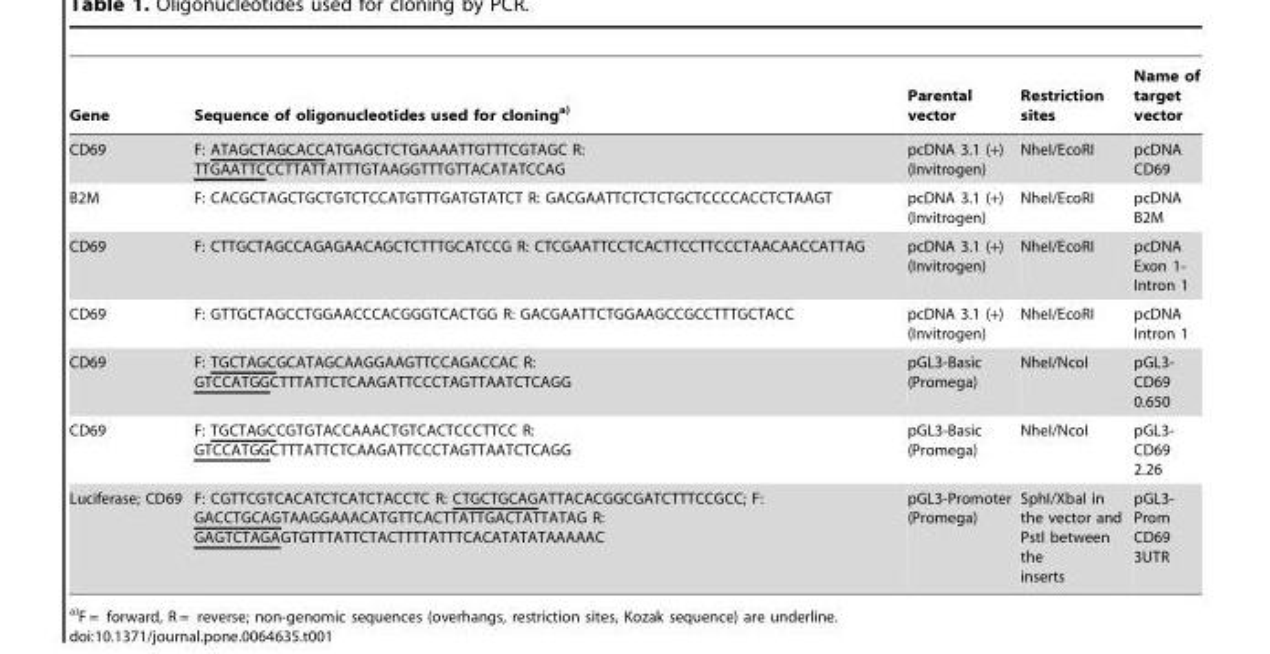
<table><thead><tr><td>Gene</td><td>Sequence of oligonucleotides used for cloninga)</td><td>Parental vector</td><td>Restriction sites</td><td>Name of target vector</td></tr></thead><tbody><tr><td>CD69</td><td>F: ATAGCTAGCACCATGAGCTCTGAAAATTGTTTCGTAGC R: TTGAATTCCCTTATTATTTGTAAGGTTTGTTACATATCCAG</td><td>pcDNA 3.1 (+) (Invitrogen)</td><td>NheI/EcoRI</td><td>pcDNA CD69</td></tr><tr><td>B2M</td><td>F: CACGCTAGCTGCTGTCTCCATGTTTGATGTATCT R: GACGAATTCTCTCTGCTCCCCACCTCTAAGT</td><td>pcDNA 3.1 (+) (Invitrogen)</td><td>NheI/EcoRI</td><td>pcDNA B2M</td></tr><tr><td>CD69</td><td>F: CTTGCTAGCCAGAGAACAGCTCTTTGCATCCG R: CTCGAATTCCTCACTTCCTTCCCTAACAACCATTAG</td><td>pcDNA 3.1 (+) (Invitrogen)</td><td>NheI/EcoRI</td><td>pcDNA Exon 1- Intron 1</td></tr><tr><td>CD69</td><td>F: GTTGCTAGCCTGGAACCCACGGGTCACTGG R: GACGAATTCTGGAAGCCGCCTTTGCTACC</td><td>pcDNA 3.1 (+) (Invitrogen)</td><td>NheI/EcoRI</td><td>pcDNA Intron 1</td></tr><tr><td>CD69</td><td>F: TGCTAGCGCATAGCAAGGAAGTTCCAGACCAC R: GTCCATGGCTTTATTCTCAAGATTCCCTAGTTAATCTCAGG</td><td>pGL3-Basic (Promega)</td><td>NheI/NcoI</td><td>pGL3- CD69 0.650</td></tr><tr><td>CD69</td><td>F: TGCTAGCCGTGTACCAAACTGTCACTCCCTTCC R: GTCCATGGCTTTATTCTCAAGATTCCCTAGTTAATCTCAGG</td><td>pGL3-Basic (Promega)</td><td>NheI/NcoI</td><td>pGL3- CD69 2.26</td></tr><tr><td>Luciferase; CD69</td><td>F: CGTTCGTCACATCTCATCTACCTC R: CTGCTGCAGATTACACGGCGATCTTTCCGCC; F: GACCTGCAGTAAGGAAACATGTTCACTTATTGACTATTATAG R: GAGTCTAGAGTGTTTATTCTACTTTTATTTCACATATATAAAAAC</td><td>pGL3-Promoter (Promega)</td><td>SphI/XbaI in the vector and PstI between the inserts</td><td>pGL3- Prom CD69 3UTR</td></tr></tbody></table>